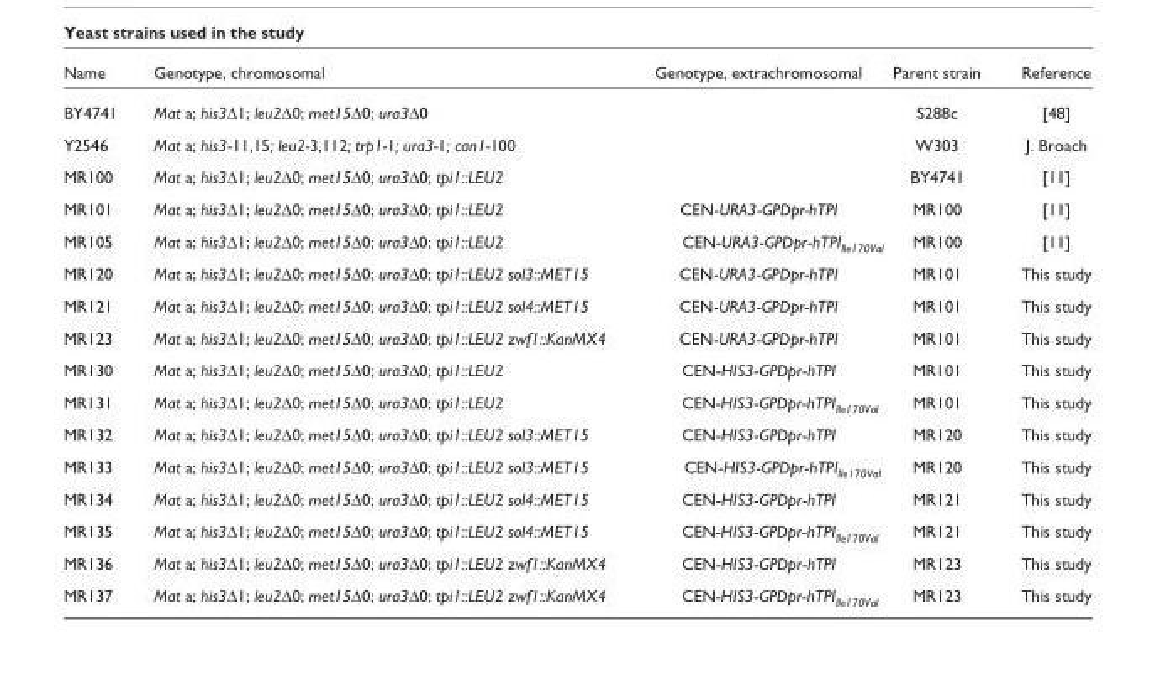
<table><thead><tr><td>Name</td><td>Genotype, chromosomal</td><td>Genotype, extrachromosomal</td><td>Parent strain</td><td>Reference</td></tr></thead><tbody><tr><td>BY4741</td><td>Mat a; his3∆1; leu2∆0; met15∆0; ura3∆0</td><td></td><td>S288c</td><td>[48]</td></tr><tr><td>Y2546</td><td>Mat a; his3-11,15; leu2-3,112; trp1-1; ura3-1; can1-100</td><td></td><td>W303</td><td>J. Broach</td></tr><tr><td>MR100</td><td>Mat a; his3∆1; leu2∆0; met15∆0; ura3∆0; tpi1::LEU2</td><td></td><td>BY4741</td><td>[11]</td></tr><tr><td>MR101</td><td>Mat a; his3∆1; leu2∆0; met15∆0; ura3∆0; tpi1::LEU2</td><td>CEN-URA3-GPDpr-hTPI</td><td>MR100</td><td>[11]</td></tr><tr><td>MR105</td><td>Mat a; his3∆1; leu2∆0; met15∆0; ura3∆0; tpi1::LEU2</td><td>CEN-URA3-GPDpr-hTPI<sub>Ile170Val</sub></td><td>MR100</td><td>[11]</td></tr><tr><td>MR120</td><td>Mat a; his3∆1; leu2∆0; met15∆0; ura3∆0; tpi1::LEU2 sol3::MET15</td><td>CEN-URA3-GPDpr-hTPI</td><td>MR101</td><td>This study</td></tr><tr><td>MR121</td><td>Mat a; his3∆1; leu2∆0; met15∆0; ura3∆0; tpi1::LEU2 sol4::MET15</td><td>CEN-URA3-GPDpr-hTPI</td><td>MR101</td><td>This study</td></tr><tr><td>MR123</td><td>Mat a; his3∆1; leu2∆0; met15∆0; ura3∆0; tpi1::LEU2 zwf1::KanMX4</td><td>CEN-URA3-GPDpr-hTPI</td><td>MR101</td><td>This study</td></tr><tr><td>MR130</td><td>Mat a; his3∆1; leu2∆0; met15∆0; ura3∆0; tpi1::LEU2</td><td>CEN-HIS3-GPDpr-hTPI</td><td>MR101</td><td>This study</td></tr><tr><td>MR131</td><td>Mat a; his3∆1; leu2∆0; met15∆0; ura3∆0; tpi1::LEU2</td><td>CEN-HIS3-GPDpr-hTPI<sub>Ile170Val</sub></td><td>MR101</td><td>This study</td></tr><tr><td>MR132</td><td>Mat a; his3∆1; leu2∆0; met15∆0; ura3∆0; tpi1::LEU2 sol3::MET15</td><td>CEN-HIS3-GPDpr-hTPI</td><td>MR120</td><td>This study</td></tr><tr><td>MR133</td><td>Mat a; his3∆1; leu2∆0; met15∆0; ura3∆0; tpi1::LEU2 sol3::MET15</td><td>CEN-HIS3-GPDpr-hTPI<sub>Ile170Val</sub></td><td>MR120</td><td>This study</td></tr><tr><td>MR134</td><td>Mat a; his3∆1; leu2∆0; met15∆0; ura3∆0; tpi1::LEU2 sol4::MET15</td><td>CEN-HIS3-GPDpr-hTPI</td><td>MR121</td><td>This study</td></tr><tr><td>MR135</td><td>Mat a; his3∆1; leu2∆0; met15∆0; ura3∆0; tpi1::LEU2 sol4::MET15</td><td>CEN-HIS3-GPDpr-hTPI<sub>Ile170Val</sub></td><td>MR121</td><td>This study</td></tr><tr><td>MR136</td><td>Mat a; his3∆1; leu2∆0; met15∆0; ura3∆0; tpi1::LEU2 zwf1::KanMX4</td><td>CEN-HIS3-GPDpr-hTPI</td><td>MR123</td><td>This study</td></tr><tr><td>MR137</td><td>Mat a; his3∆1; leu2∆0; met15∆0; ura3∆0; tpi1::LEU2 zwf1::KanMX4</td><td>CEN-HIS3-GPDpr-hTPI<sub>Ile170Val</sub></td><td>MR123</td><td>This study</td></tr></tbody></table>